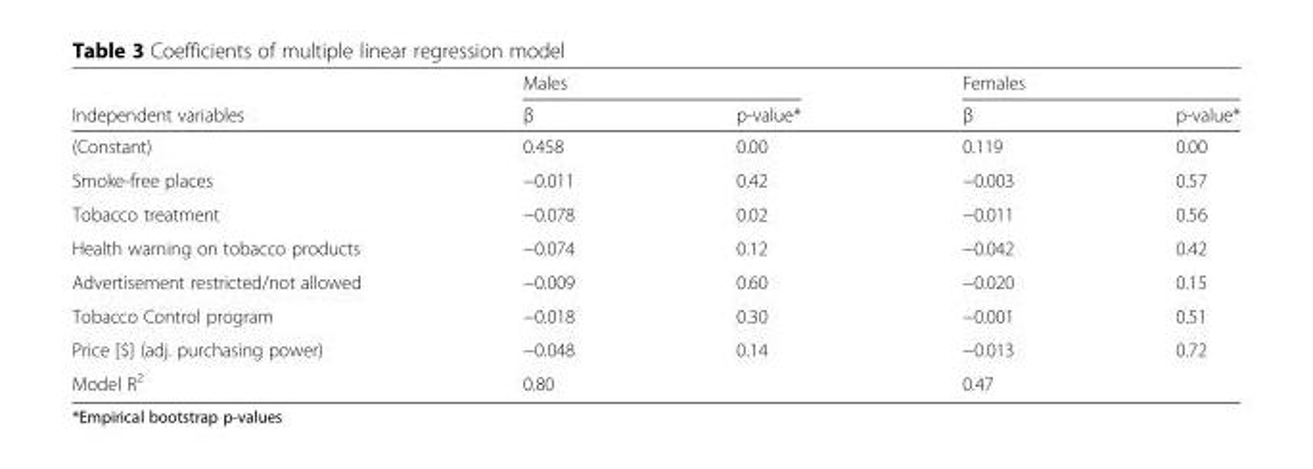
<table><thead><tr><td rowspan="2">Independent variables</td><td colspan="2">Males</td><td colspan="2">Females</td></tr><tr><td>β</td><td>p-value*</td><td>β</td><td>p-value*</td></tr></thead><tbody><tr><td>(Constant)</td><td>0.458</td><td>0.00</td><td>0.119</td><td>0.00</td></tr><tr><td>Smoke-free places</td><td>−0.011</td><td>0.42</td><td>−0.003</td><td>0.57</td></tr><tr><td>Tobacco treatment</td><td>−0.078</td><td>0.02</td><td>−0.011</td><td>0.56</td></tr><tr><td>Health warning on tobacco products</td><td>−0.074</td><td>0.12</td><td>−0.042</td><td>0.42</td></tr><tr><td>Advertisement restricted/not allowed</td><td>−0.009</td><td>0.60</td><td>−0.020</td><td>0.15</td></tr><tr><td>Tobacco Control program</td><td>−0.018</td><td>0.30</td><td>−0.001</td><td>0.51</td></tr><tr><td>Price [$] (adj. purchasing power)</td><td>−0.048</td><td>0.14</td><td>−0.013</td><td>0.72</td></tr><tr><td>Model R<sup>2</sup></td><td>0.80</td><td></td><td>0.47</td><td></td></tr></tbody></table>